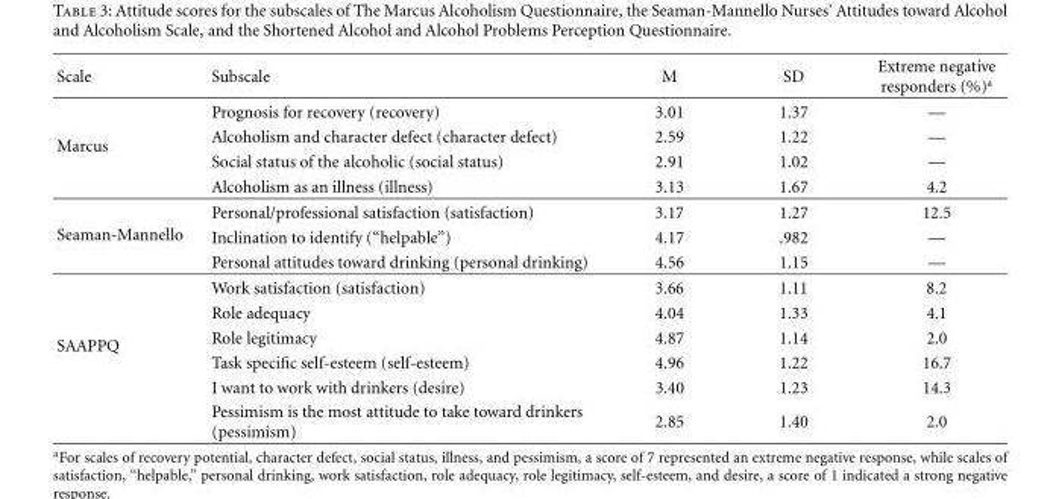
<table><thead><tr><td>Scale</td><td>Subscale</td><td>M</td><td>SD</td><td>Extreme negative responders (%)<sup>a</sup></td></tr></thead><tbody><tr><td rowspan="4">Marcus</td><td>Prognosis for recovery (recovery)</td><td>3.01</td><td>1.37</td><td>—</td></tr><tr><td>Alcoholism and character defect (character defect)</td><td>2.59</td><td>1.22</td><td>—</td></tr><tr><td>Social status of the alcoholic (social status)</td><td>2.91</td><td>1.02</td><td>—</td></tr><tr><td>Alcoholism as an illness (illness)</td><td>3.13</td><td>1.67</td><td>4.2</td></tr><tr><td rowspan="3">Seaman-Mannello</td><td>Personal/professional satisfaction (satisfaction)</td><td>3.17</td><td>1.27</td><td>12.5</td></tr><tr><td>Inclination to identify (“helpable”)</td><td>4.17</td><td>.982</td><td>—</td></tr><tr><td>Personal attitudes toward drinking (personal drinking)</td><td>4.56</td><td>1.15</td><td>—</td></tr><tr><td rowspan="6">SAAPPQ</td><td>Work satisfaction (satisfaction)</td><td>3.66</td><td>1.11</td><td>8.2</td></tr><tr><td>Role adequacy</td><td>4.04</td><td>1.33</td><td>4.1</td></tr><tr><td>Role legitimacy</td><td>4.87</td><td>1.14</td><td>2.0</td></tr><tr><td>Task specific self-esteem (self-esteem)</td><td>4.96</td><td>1.22</td><td>16.7</td></tr><tr><td>I want to work with drinkers (desire)</td><td>3.40</td><td>1.23</td><td>14.3</td></tr><tr><td>Pessimism is the most attitude to take toward drinkers (pessimism)</td><td>2.85</td><td>1.40</td><td>2.0</td></tr></tbody></table>